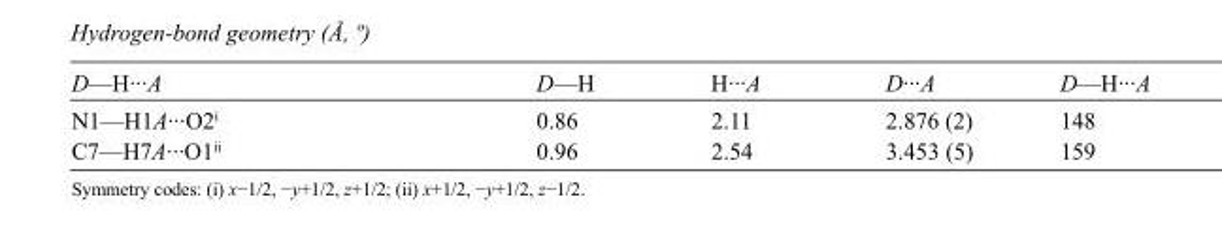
<table><tbody><tr><td>D—H···A</td><td>D—H</td><td>H···A</td><td>D···A</td><td>D—H···A</td></tr><tr><td>N1—H1A···O2<sup>i</sup></td><td>0.86</td><td>2.11</td><td>2.876 (2)</td><td>148</td></tr><tr><td>C7—H7A···O1<sup>ii</sup></td><td>0.96</td><td>2.54</td><td>3.453 (5)</td><td>159</td></tr></tbody></table>